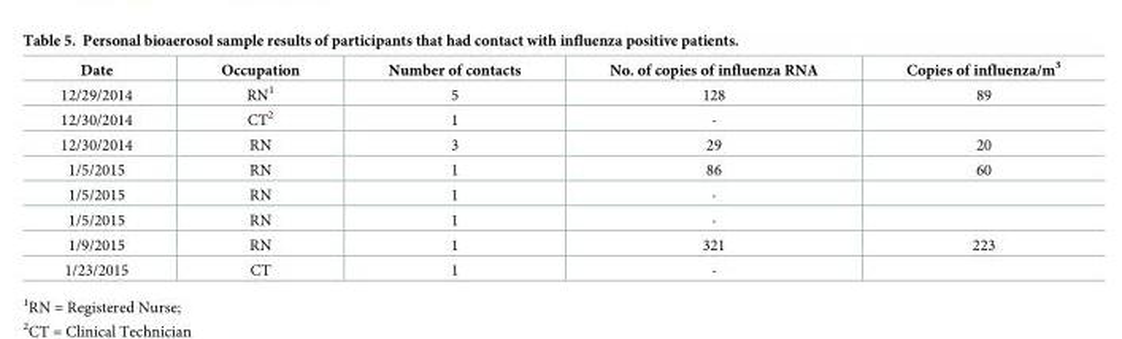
<table><thead><tr><td>Date</td><td>Occupation</td><td>Number of contacts</td><td>No. of copies of influenza RNA</td><td>Copies of influenza/m<sup>3</sup></td></tr></thead><tbody><tr><td>12/29/2014</td><td>RN<sup>1</sup></td><td>5</td><td>128</td><td>89</td></tr><tr><td>12/30/2014</td><td>CT<sup>2</sup></td><td>1</td><td>-</td><td></td></tr><tr><td>12/30/2014</td><td>RN</td><td>3</td><td>29</td><td>20</td></tr><tr><td>1/5/2015</td><td>RN</td><td>1</td><td>86</td><td>60</td></tr><tr><td>1/5/2015</td><td>RN</td><td>1</td><td>-</td><td></td></tr><tr><td>1/5/2015</td><td>RN</td><td>1</td><td>-</td><td></td></tr><tr><td>1/9/2015</td><td>RN</td><td>1</td><td>321</td><td>223</td></tr><tr><td>1/23/2015</td><td>CT</td><td>1</td><td>-</td><td></td></tr></tbody></table>